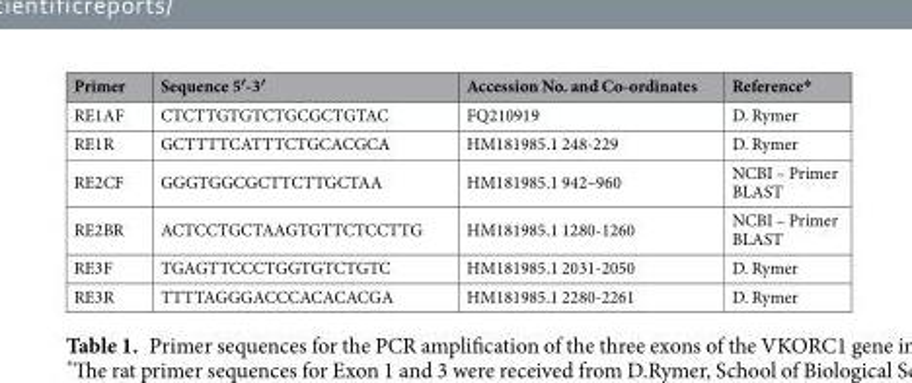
<table><thead><tr><td>Primer</td><td>Sequence 5′-3′</td><td>Accession No. and Co-ordinates</td><td>Reference*</td></tr></thead><tbody><tr><td>RE1AF</td><td>CTCTTGTGTCTGCGCTGTAC</td><td>FQ210919</td><td>D. Rymer</td></tr><tr><td>RE1R</td><td>GCTTTTCATTTCTGCACGCA</td><td>HM181985.1 248-229</td><td>D. Rymer</td></tr><tr><td>RE2CF</td><td>GGGTGGCGCTTCTTGCTAA</td><td>HM181985.1 942–960</td><td>NCBI – Primer BLAST</td></tr><tr><td>RE2BR</td><td>ACTCCTGCTAAGTGTTCTCCTTG</td><td>HM181985.1 1280-1260</td><td>NCBI – Primer BLAST</td></tr><tr><td>RE3F</td><td>TGAGTTCCCTGGTGTCTGTC</td><td>HM181985.1 2031-2050</td><td>D. Rymer</td></tr><tr><td>RE3R</td><td>TTTTAGGGACCCACACACGA</td><td>HM181985.1 2280-2261</td><td>D. Rymer</td></tr></tbody></table>